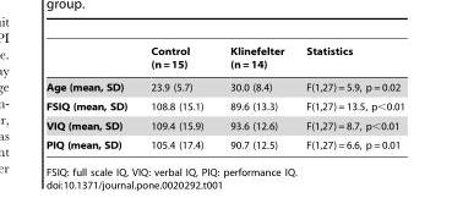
<table><thead><tr><td></td><td>Control (n = 15)</td><td>Klinefelter (n = 14)</td><td>Statistics</td></tr></thead><tbody><tr><td>Age (mean, SD)</td><td>23.9 (5.7)</td><td>30.0 (8.4)</td><td>F(1,27) = 5.9, p = 0.02</td></tr><tr><td>FSIQ (mean, SD)</td><td>108.8 (15.1)</td><td>89.6 (13.3)</td><td>F(1,27) = 13.5, p&lt;0.01</td></tr><tr><td>VIQ (mean, SD)</td><td>109.4 (15.9)</td><td>93.6 (12.6)</td><td>F(1,27) = 8.7, p&lt;0.01</td></tr><tr><td>PIQ (mean, SD)</td><td>105.4 (17.4)</td><td>90.7 (12.5)</td><td>F(1,27) = 6.6, p = 0.01</td></tr></tbody></table>